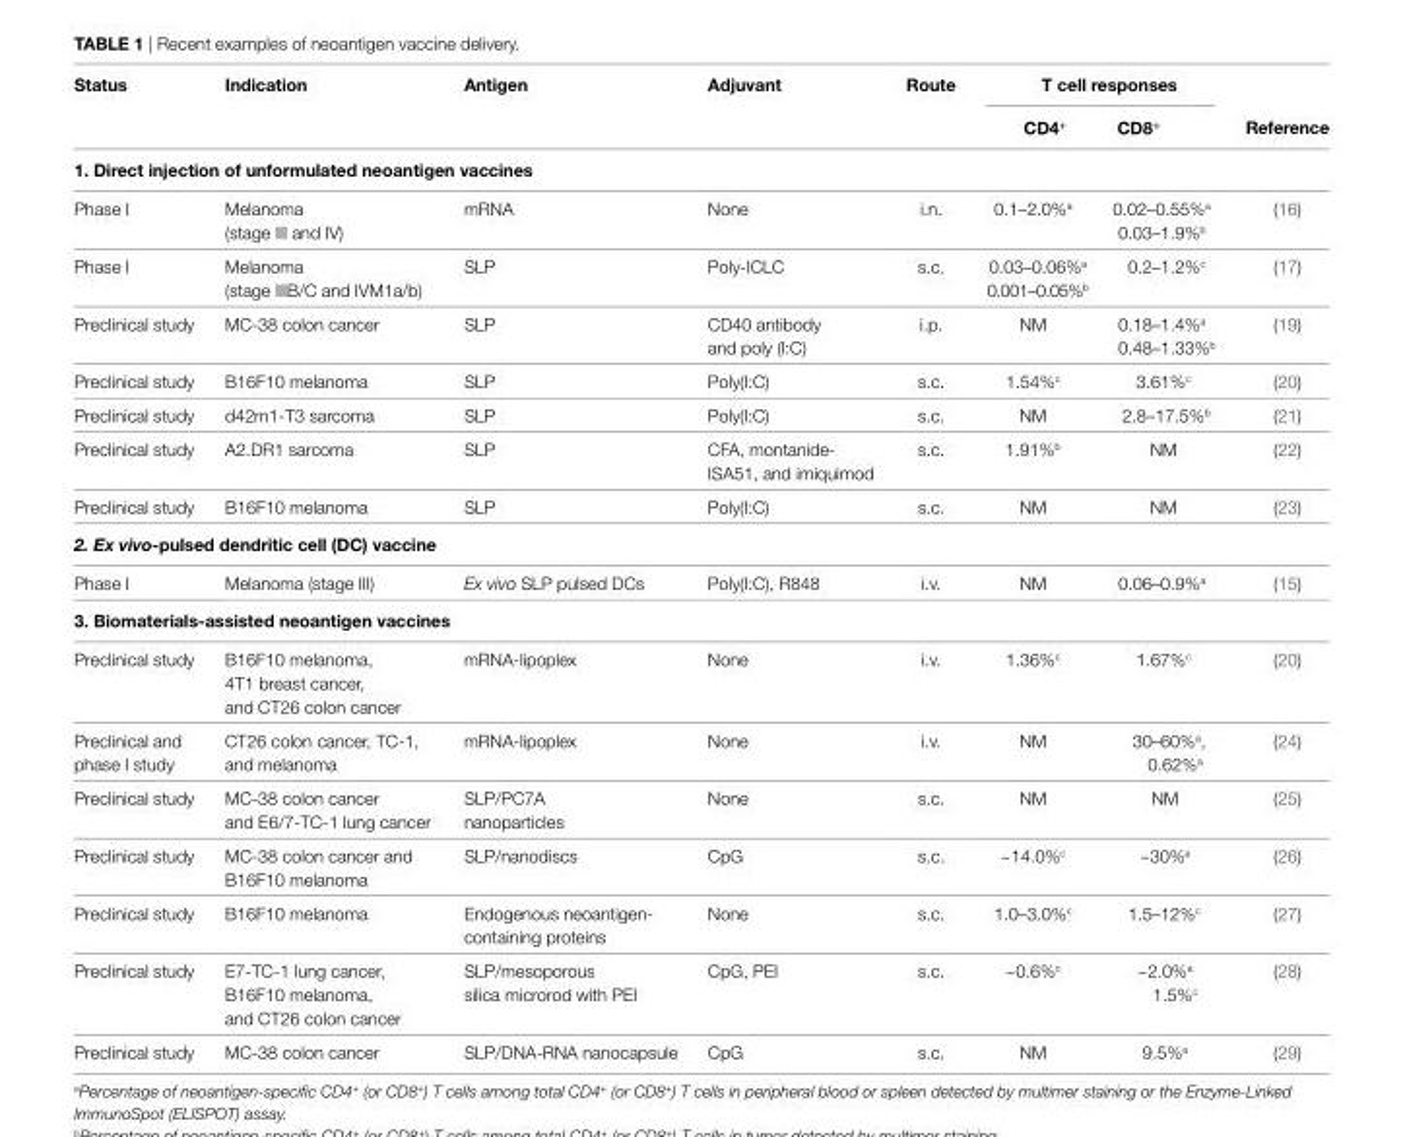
<table><thead><tr><td rowspan="2">Status</td><td rowspan="2">indication</td><td rowspan="2">Antigen</td><td rowspan="2">Adjuvant</td><td rowspan="2">Route</td><td colspan="2">T cell responses</td><td rowspan="2">Reference</td></tr><tr><td>CD4<sup>+</sup></td><td>CD8<sup>+</sup></td></tr></thead><tbody><tr><td colspan="8">1. Direct injection of unformulated neoantigen vaccines</td></tr><tr><td>Phase I</td><td>Melanoma (stage III and IV)</td><td>mRNA</td><td>None</td><td>i.n.</td><td>0.1–2.0%<sup>a</sup></td><td>0.02–0.55%<sup>a</sup> 0.03–1.9%<sup>b</sup></td><td>(16)</td></tr><tr><td>Phase I</td><td>Melanoma (stage IIIB/C and IVM1a/b)</td><td>SLP</td><td>Poly-ICLC</td><td>s.c.</td><td>0.03–0.06%<sup>a</sup> 0.001–0.05%<sup>b</sup></td><td>0.2–1.2%<sup>c</sup></td><td>(17)</td></tr><tr><td>Preclinical study</td><td>MC-38 colon cancer</td><td>SLP</td><td>CD40 antibody and poly (I:C)</td><td>i.p.</td><td>NM</td><td>0.18–1.4%<sup>a</sup> 0.48–1.33%<sup>b</sup></td><td>(19)</td></tr><tr><td>Preclinical study</td><td>B16F10 melanoma</td><td>SLP</td><td>Poly(I:C)</td><td>s.c.</td><td>1.54%<sup>c</sup></td><td>3.61%<sup>c</sup></td><td>(20)</td></tr><tr><td>Preclinical study</td><td>d42m1-T3 sarcoma</td><td>SLP</td><td>Poly(I:C)</td><td>s.c.</td><td>NM</td><td>2.8–17.5%<sup>b</sup></td><td>(21)</td></tr><tr><td>Preclinical study</td><td>A2.DR1 sarcoma</td><td>SLP</td><td>CFA, montanide- ISA51, and imiquimod</td><td>s.c.</td><td>1.91%<sup>b</sup></td><td>NM</td><td>(22)</td></tr><tr><td>Preclinical study</td><td>B16F10 melanoma</td><td>SLP</td><td>Poly(I:C)</td><td>s.c.</td><td>NM</td><td>NM</td><td>(23)</td></tr><tr><td colspan="8">2. Ex vivo-pulsed dendritic cell (DC) vaccine</td></tr><tr><td>Phase I</td><td>Melanoma (stage III)</td><td>Ex vivo SLP pulsed DCs</td><td>Poly(I:C), R848</td><td>i.v.</td><td>NM</td><td>0.06–0.9%<sup>a</sup></td><td>(15)</td></tr><tr><td colspan="8">3. biomaterials-assisted neoantigen vaccines</td></tr><tr><td>Preclinical study</td><td>B16F10 melanoma, 4T1 breast cancer, and CT26 colon cancer</td><td>mRNA-lipoplex</td><td>None</td><td>i.v.</td><td>1.36%<sup>c</sup></td><td>1.67%<sup>c</sup></td><td>(20)</td></tr><tr><td>Preclinical and phase I study</td><td>CT26 colon cancer, TC-1, and melanoma</td><td>mRNA-lipoplex</td><td>None</td><td>i.v.</td><td>NM</td><td>30–60%<sup>a</sup>, 0.62%<sup>a</sup></td><td>(24)</td></tr><tr><td>Preclinical study</td><td>MC-38 colon cancer and E6/7-TC-1 lung cancer</td><td>SLP/PC7A nanoparticles</td><td>None</td><td>s.c.</td><td>NM</td><td>NM</td><td>(25)</td></tr><tr><td>Preclinical study</td><td>MC-38 colon cancer and B16F10 melanoma</td><td>SLP/nanodiscs</td><td>CpG</td><td>s.c.</td><td>~14.0%<sup>c</sup></td><td>~30%<sup>a</sup></td><td>(26)</td></tr><tr><td>Preclinical study</td><td>B16F10 melanoma</td><td>Endogenous neoantigen- containing proteins</td><td>None</td><td>s.c.</td><td>1.0–3.0%<sup>c</sup></td><td>1.5–12%<sup>c</sup></td><td>(27)</td></tr><tr><td>Preclinical study</td><td>E7-TC-1 lung cancer, B16F10 melanoma, and CT26 colon cancer</td><td>SLP/mesoporous silica microrod with PEI</td><td>CpG, PEI</td><td>s.c.</td><td>~0.6%<sup>c</sup></td><td>~2.0%<sup>a</sup> 1.5%<sup>c</sup></td><td>(28)</td></tr><tr><td>Preclinical study</td><td>MC-38 colon cancer</td><td>SLP/DNA-RNA nanocapsule</td><td>CpG</td><td>s.c.</td><td>NM</td><td>9.5%<sup>a</sup></td><td>(29)</td></tr></tbody></table>